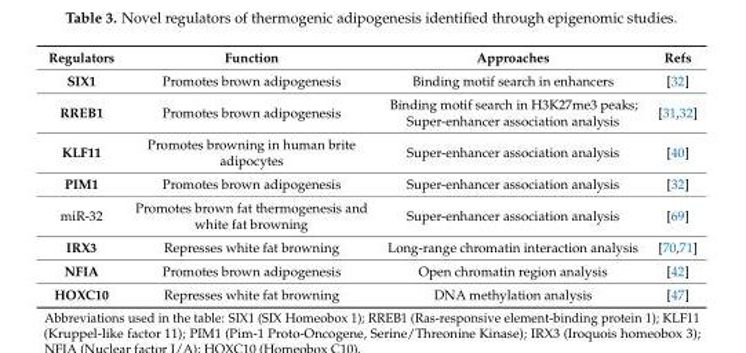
<table><thead><tr><td>Regulators</td><td>Function</td><td>Approaches</td><td>Refs</td></tr></thead><tbody><tr><td>SIX1</td><td>Promotes brown adipogenesis</td><td>Binding motif search in enhancers</td><td>[32]</td></tr><tr><td>RREB1</td><td>Promotes brown adipogenesis</td><td>Binding motif search in H3K27me3 peaks; Super-enhancer association analysis</td><td>[31,32]</td></tr><tr><td>KLF11</td><td>Promotes browning in human brite adipocytes</td><td>Super-enhancer association analysis</td><td>[40]</td></tr><tr><td>PIM1</td><td>Promotes brown adipogenesis</td><td>Super-enhancer association analysis</td><td>[32]</td></tr><tr><td>miR-32</td><td>Promotes brown fat thermogenesis and white fat browning</td><td>Super-enhancer association analysis</td><td>[69]</td></tr><tr><td>IRX3</td><td>Represses white fat browning</td><td>Long-range chromatin interaction analysis</td><td>[70,71]</td></tr><tr><td>NFIA</td><td>Promotes brown adipogenesis</td><td>Open chromatin region analysis</td><td>[42]</td></tr><tr><td>HOXC10</td><td>Represses white fat browning</td><td>DNA methylation analysis</td><td>[47]</td></tr></tbody></table>